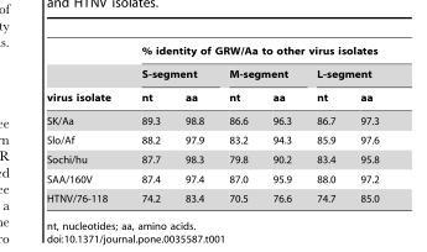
<table><thead><tr><td rowspan="3">virus isolate</td><td colspan="6">% identity of GRW/Aa to other virus isolates</td></tr><tr><td colspan="2">S-segment</td><td colspan="2">M-segment</td><td colspan="2">L-segment</td></tr><tr><td>nt</td><td>aa</td><td>nt</td><td>aa</td><td>nt</td><td>aa</td></tr></thead><tbody><tr><td>SK/Aa</td><td>89.3</td><td>98.8</td><td>86.6</td><td>96.3</td><td>86.7</td><td>97.3</td></tr><tr><td>Slo/Af</td><td>88.2</td><td>97.9</td><td>83.2</td><td>94.3</td><td>85.9</td><td>97.6</td></tr><tr><td>Sochi/hu</td><td>87.7</td><td>98.3</td><td>79.8</td><td>90.2</td><td>83.4</td><td>95.8</td></tr><tr><td>SAA/160V</td><td>87.4</td><td>97.4</td><td>87.0</td><td>95.9</td><td>88.0</td><td>97.2</td></tr><tr><td>HTNV/76-118</td><td>74.2</td><td>83.4</td><td>70.5</td><td>76.6</td><td>74.7</td><td>85.0</td></tr></tbody></table>